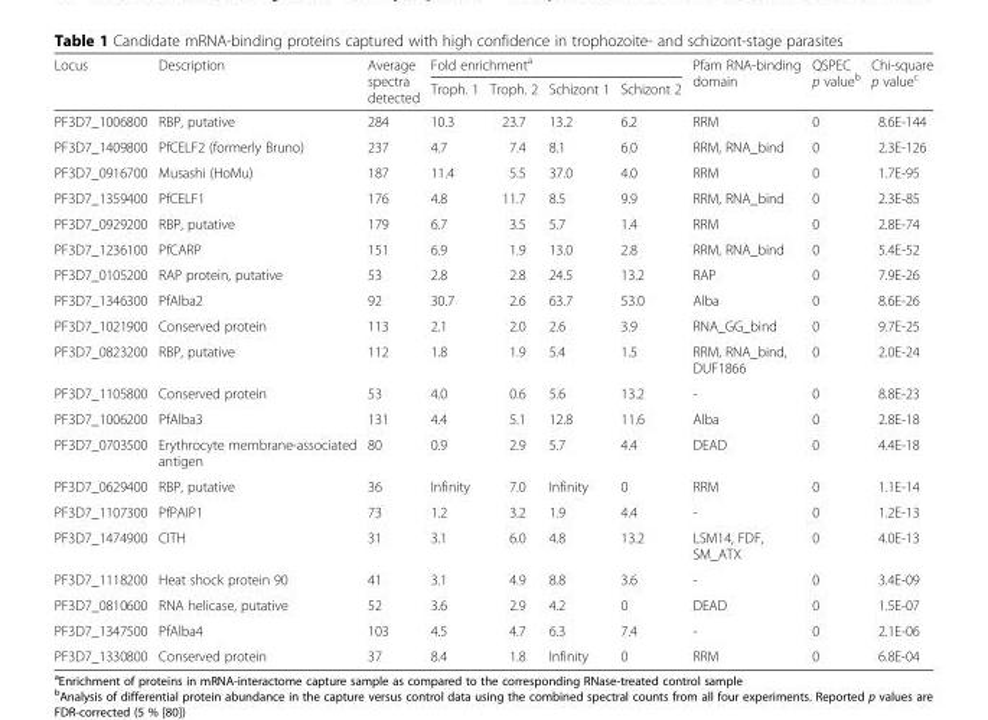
<table><thead><tr><td rowspan="2">Locus</td><td rowspan="2">Description</td><td rowspan="2">Average spectra detected</td><td colspan="4">Fold enrichment<sup>a</sup></td><td rowspan="2">Pfam RNA-binding domain</td><td rowspan="2">QSPEC p value<sup>b</sup></td><td rowspan="2">Chi-square p value<sup>c</sup></td></tr><tr><td>Troph. 1</td><td>Troph. 2</td><td>Schizont 1</td><td>Schizont 2</td></tr></thead><tbody><tr><td>PF3D7_1006800</td><td>RBP, putative</td><td>284</td><td>10.3</td><td>23.7</td><td>13.2</td><td>6.2</td><td>RRM</td><td>0</td><td>8.6E-144</td></tr><tr><td>PF3D7_1409800</td><td>PfCELF2 (formerly Bruno)</td><td>237</td><td>4.7</td><td>7.4</td><td>8.1</td><td>6.0</td><td>RRM, RNA_bind</td><td>0</td><td>2.3E-126</td></tr><tr><td>PF3D7_0916700</td><td>Musashi (HoMu)</td><td>187</td><td>11.4</td><td>5.5</td><td>37.0</td><td>4.0</td><td>RRM</td><td>0</td><td>1.7E-95</td></tr><tr><td>PF3D7_1359400</td><td>PfCELF1</td><td>176</td><td>4.8</td><td>11.7</td><td>8.5</td><td>9.9</td><td>RRM, RNA_bind</td><td>0</td><td>2.3E-85</td></tr><tr><td>PF3D7_0929200</td><td>RBP, putative</td><td>179</td><td>6.7</td><td>3.5</td><td>5.7</td><td>1.4</td><td>RRM</td><td>0</td><td>2.8E-74</td></tr><tr><td>PF3D7_1236100</td><td>PfCARP</td><td>151</td><td>6.9</td><td>1.9</td><td>13.0</td><td>2.8</td><td>RRM, RNA_bind</td><td>0</td><td>5.4E-52</td></tr><tr><td>PF3D7_0105200</td><td>RAP protein, putative</td><td>53</td><td>2.8</td><td>2.8</td><td>24.5</td><td>13.2</td><td>RAP</td><td>0</td><td>7.9E-26</td></tr><tr><td>PF3D7_1346300</td><td>PfAlba2</td><td>92</td><td>30.7</td><td>2.6</td><td>63.7</td><td>53.0</td><td>Alba</td><td>0</td><td>8.6E-26</td></tr><tr><td>PF3D7_1021900</td><td>Conserved protein</td><td>113</td><td>2.1</td><td>2.0</td><td>2.6</td><td>3.9</td><td>RNA_GG_bind</td><td>0</td><td>9.7E-25</td></tr><tr><td>PF3D7_0823200</td><td>RBP, putative</td><td>112</td><td>1.8</td><td>1.9</td><td>5.4</td><td>1.5</td><td>RRM, RNA_bind, DUF1866</td><td>0</td><td>2.0E-24</td></tr><tr><td>PF3D7_1105800</td><td>Conserved protein</td><td>53</td><td>4.0</td><td>0.6</td><td>5.6</td><td>13.2</td><td>-</td><td>0</td><td>8.8E-23</td></tr><tr><td>PF3D7_1006200</td><td>PfAlba3</td><td>131</td><td>4.4</td><td>5.1</td><td>12.8</td><td>11.6</td><td>Alba</td><td>0</td><td>2.8E-18</td></tr><tr><td>PF3D7_0703500</td><td>Erythrocyte membrane-associated antigen</td><td>80</td><td>0.9</td><td>2.9</td><td>5.7</td><td>4.4</td><td>DEAD</td><td>0</td><td>4.4E-18</td></tr><tr><td>PF3D7_0629400</td><td>RBP, putative</td><td>36</td><td>Infinity</td><td>7.0</td><td>Infinity</td><td>0</td><td>RRM</td><td>0</td><td>1.1E-14</td></tr><tr><td>PF3D7_1107300</td><td>PfPAIP1</td><td>73</td><td>1.2</td><td>3.2</td><td>1.9</td><td>4.4</td><td>-</td><td>0</td><td>1.2E-13</td></tr><tr><td>PF3D7_1474900</td><td>CITH</td><td>31</td><td>3.1</td><td>6.0</td><td>4.8</td><td>13.2</td><td>LSM14, FDF, SM_ATX</td><td>0</td><td>4.0E-13</td></tr><tr><td>PF3D7_1118200</td><td>Heat shock protein 90</td><td>41</td><td>3.1</td><td>4.9</td><td>8.8</td><td>3.6</td><td>-</td><td>0</td><td>3.4E-09</td></tr><tr><td>PF3D7_0810600</td><td>RNA helicase, putative</td><td>52</td><td>3.6</td><td>2.9</td><td>4.2</td><td>0</td><td>DEAD</td><td>0</td><td>1.5E-07</td></tr><tr><td>PF3D7_1347500</td><td>PfAlba4</td><td>103</td><td>4.5</td><td>4.7</td><td>6.3</td><td>7.4</td><td>-</td><td>0</td><td>2.1E-06</td></tr><tr><td>PF3D7_1330800</td><td>Conserved protein</td><td>37</td><td>8.4</td><td>1.8</td><td>Infinity</td><td>0</td><td>RRM</td><td>0</td><td>6.8E-04</td></tr></tbody></table>